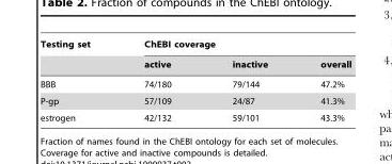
<table><thead><tr><td rowspan="2">Testing set</td><td colspan="3">ChEBI coverage</td></tr><tr><td>active</td><td>inactive</td><td>overall</td></tr></thead><tbody><tr><td>BBB</td><td>74/180</td><td>79/144</td><td>47.2%</td></tr><tr><td>P-gp</td><td>57/109</td><td>24/87</td><td>41.3%</td></tr><tr><td>estrogen</td><td>42/132</td><td>59/101</td><td>43.3%</td></tr></tbody></table>